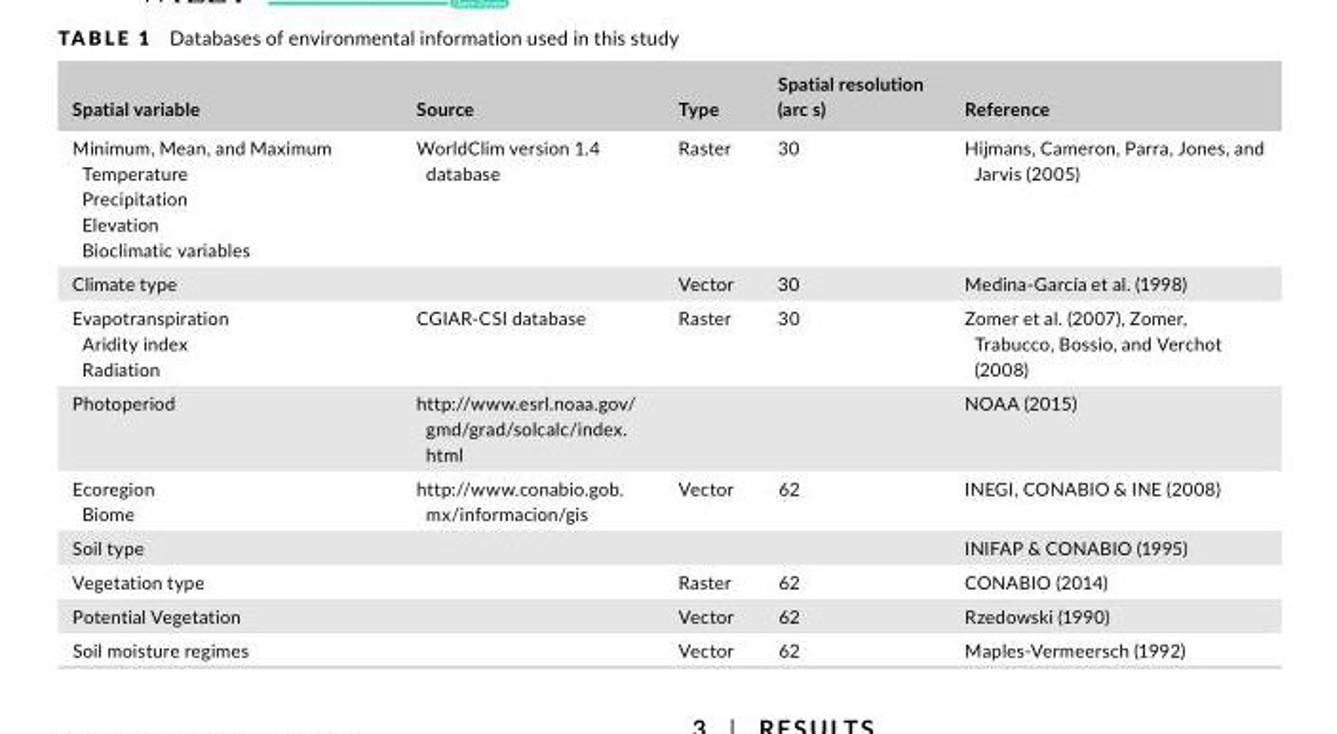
<table><thead><tr><td>Spatial variable</td><td>Source</td><td>Type</td><td>Spatial resolution (arc s)</td><td>Reference</td></tr></thead><tbody><tr><td>Minimum, Mean, and Maximum Temperature Precipitation Elevation Bioclimatic variables</td><td>WorldClim version 1.4 database</td><td>Raster</td><td>30</td><td>Hijmans, Cameron, Parra, Jones, and Jarvis (2005)</td></tr><tr><td>Climate type</td><td></td><td>Vector</td><td>30</td><td>Medina- García et al. (1998)</td></tr><tr><td>Evapotranspiration Aridity index Radiation</td><td>CGIAR- CSI database</td><td>Raster</td><td>30</td><td>Zomer et al. (2007), Zomer, Trabucco, Bossio, and Verchot (2008)</td></tr><tr><td>Photoperiod</td><td>http://www.esrl.noaa.gov/ gmd/grad/solcalc/index. html</td><td></td><td></td><td>NOAA (2015)</td></tr><tr><td>Ecoregion Biome</td><td>http://www.conabio.gob. mx/informacion/gis</td><td>Vector</td><td>62</td><td>INEGI, CONABIO &amp; INE (2008)</td></tr><tr><td>Soil type</td><td></td><td></td><td></td><td>INIFAP &amp; CONABIO (1995)</td></tr><tr><td>Vegetation type</td><td></td><td>Raster</td><td>62</td><td>CONABIO (2014)</td></tr><tr><td>Potential Vegetation</td><td></td><td>Vector</td><td>62</td><td>Rzedowski (1990)</td></tr><tr><td>Soil moisture regimes</td><td></td><td>Vector</td><td>62</td><td>Maples- Vermeersch (1992)</td></tr></tbody></table>